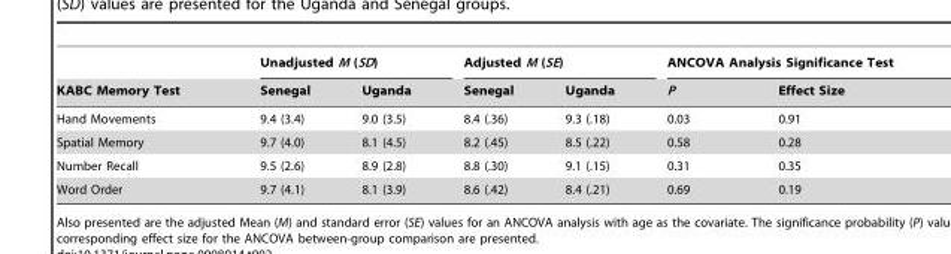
<table><thead><tr><td rowspan="2">KABC Memory Test</td><td colspan="2">Unadjusted M (SD)</td><td colspan="2">Adjusted M (SE)</td><td colspan="2">ANCOVA Analysis Significance Test</td></tr><tr><td>Senegal</td><td>Uganda</td><td>Senegal</td><td>Uganda</td><td>P</td><td>Effect Size</td></tr></thead><tbody><tr><td>Hand Movements</td><td>9.4 (3.4)</td><td>9.0 (3.5)</td><td>8.4 (.36)</td><td>9.3 (.18)</td><td>0.03</td><td>0.91</td></tr><tr><td>Spatial Memory</td><td>9.7 (4.0)</td><td>8.1 (4.5)</td><td>8.2 (.45)</td><td>8.5 (.22)</td><td>0.58</td><td>0.28</td></tr><tr><td>Number Recall</td><td>9.5 (2.6)</td><td>8.9 (2.8)</td><td>8.8 (.30)</td><td>9.1 (.15)</td><td>0.31</td><td>0.35</td></tr><tr><td>Word Order</td><td>9.7 (4.1)</td><td>8.1 (3.9)</td><td>8.6 (.42)</td><td>8.4 (.21)</td><td>0.69</td><td>0.19</td></tr></tbody></table>